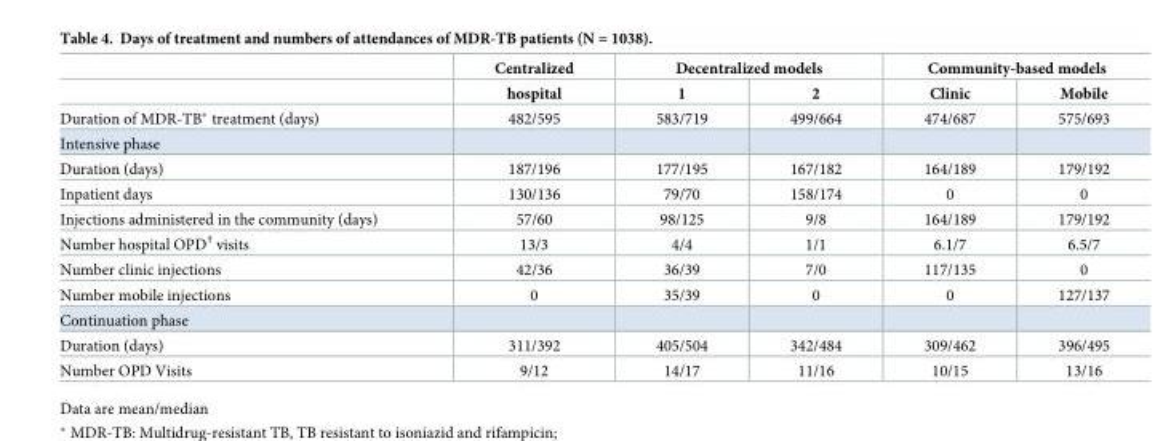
<table><thead><tr><td rowspan="2"></td><td rowspan="2">Centralized hospital</td><td colspan="2">Decentralized models</td><td colspan="2">Community-based models</td></tr><tr><td>1</td><td>2</td><td>Clinic</td><td>Mobile</td></tr></thead><tbody><tr><td>Duration of MDR-TB* treatment (days)</td><td>482/595</td><td>583/719</td><td>499/664</td><td>474/687</td><td>575/693</td></tr><tr><td colspan="6">Intensive phase</td></tr><tr><td>Duration (days)</td><td>187/196</td><td>177/195</td><td>167/182</td><td>164/189</td><td>179/192</td></tr><tr><td>Inpatient days</td><td>130/136</td><td>79/70</td><td>158/174</td><td>0</td><td>0</td></tr><tr><td>Injections administered in the community (days)</td><td>57/60</td><td>98/125</td><td>9/8</td><td>164/189</td><td>179/192</td></tr><tr><td>Number hospital OPD<sup>†</sup> visits</td><td>13/3</td><td>4/4</td><td>1/1</td><td>6.1/7</td><td>6.5/7</td></tr><tr><td>Number clinic injections</td><td>42/36</td><td>36/39</td><td>7/0</td><td>117/135</td><td>0</td></tr><tr><td>Number mobile injections</td><td>0</td><td>35/39</td><td>0</td><td>0</td><td>127/137</td></tr><tr><td colspan="6">Continuation phase</td></tr><tr><td>Duration (days)</td><td>311/392</td><td>405/504</td><td>342/484</td><td>309/462</td><td>396/495</td></tr><tr><td>Number OPD Visits</td><td>9/12</td><td>14/17</td><td>11/16</td><td>10/15</td><td>13/16</td></tr></tbody></table>